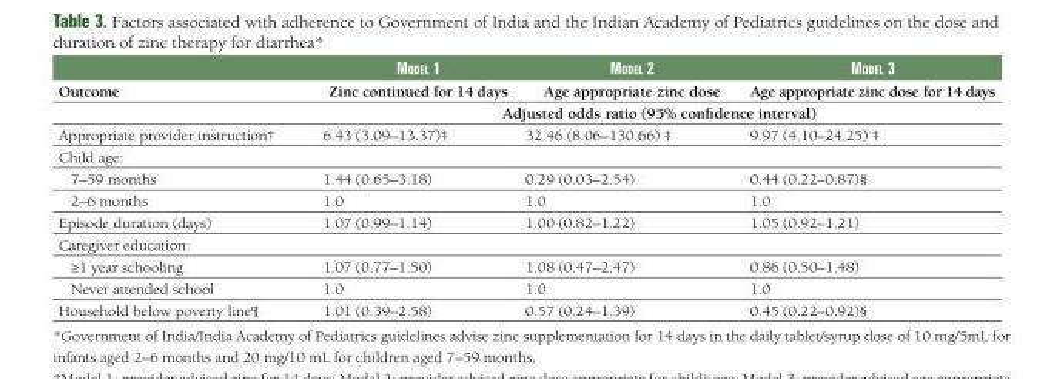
<table><thead><tr><td></td><td>model 1</td><td>model 2</td><td>model 3</td></tr></thead><tbody><tr><td rowspan="2">Outcome</td><td>Zinc continued for 14 days</td><td>Age appropriate zinc dose</td><td>Age appropriate zinc dose for 14 days</td></tr><tr><td colspan="3">Adjusted odds ratio (95% confidence interval)</td></tr><tr><td>Appropriate provider instruction†</td><td>6.43 (3.09–13.37)‡</td><td>32.46 (8.06–130.66) ‡</td><td>9.97 (4.10–24.25) ‡</td></tr><tr><td colspan="4">Child age:</td></tr><tr><td>7–59 months</td><td>1.44 (0.65–3.18)</td><td>0.29 (0.03–2.54)</td><td>0.44 (0.22–0.87)§</td></tr><tr><td>2–6 months</td><td>1.0</td><td>1.0</td><td>1.0</td></tr><tr><td>Episode duration (days)</td><td>1.07 (0.99–1.14)</td><td>1.00 (0.82–1.22)</td><td>1.05 (0.92–1.21)</td></tr><tr><td colspan="4">Caregiver education:</td></tr><tr><td>≥1 year schooling</td><td>1.07 (0.77–1.50)</td><td>1.08 (0.47–2.47)</td><td>0.86 (0.50–1.48)</td></tr><tr><td>Never attended school</td><td>1.0</td><td>1.0</td><td>1.0</td></tr><tr><td>Household below poverty line¶</td><td>1.01 (0.39–2.58)</td><td>0.57 (0.24–1.39)</td><td>0.45 (0.22–0.92)§</td></tr></tbody></table>